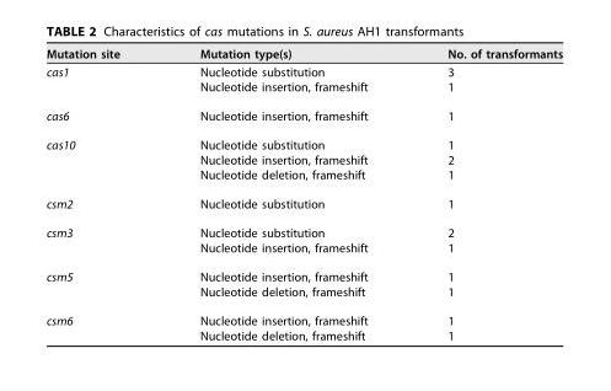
<table><thead><tr><td>Mutation site</td><td>Mutation type(s)</td><td>No. of transformants</td></tr></thead><tbody><tr><td rowspan="2">cas1</td><td>Nucleotide substitution</td><td>3</td></tr><tr><td>Nucleotide insertion, frameshift</td><td>1</td></tr><tr><td>cas6</td><td>Nucleotide insertion, frameshift</td><td>1</td></tr><tr><td rowspan="3">cas10</td><td>Nucleotide substitution</td><td>1</td></tr><tr><td>Nucleotide insertion, frameshift</td><td>2</td></tr><tr><td>Nucleotide deletion, frameshift</td><td>1</td></tr><tr><td>csm2</td><td>Nucleotide substitution</td><td>1</td></tr><tr><td rowspan="2">csm3</td><td>Nucleotide substitution</td><td>2</td></tr><tr><td>Nucleotide insertion, frameshift</td><td>1</td></tr><tr><td rowspan="2">csm5</td><td>Nucleotide insertion, frameshift</td><td>1</td></tr><tr><td>Nucleotide deletion, frameshift</td><td>1</td></tr><tr><td rowspan="2">csm6</td><td>Nucleotide insertion, frameshift</td><td>1</td></tr><tr><td>Nucleotide deletion, frameshift</td><td>1</td></tr></tbody></table>